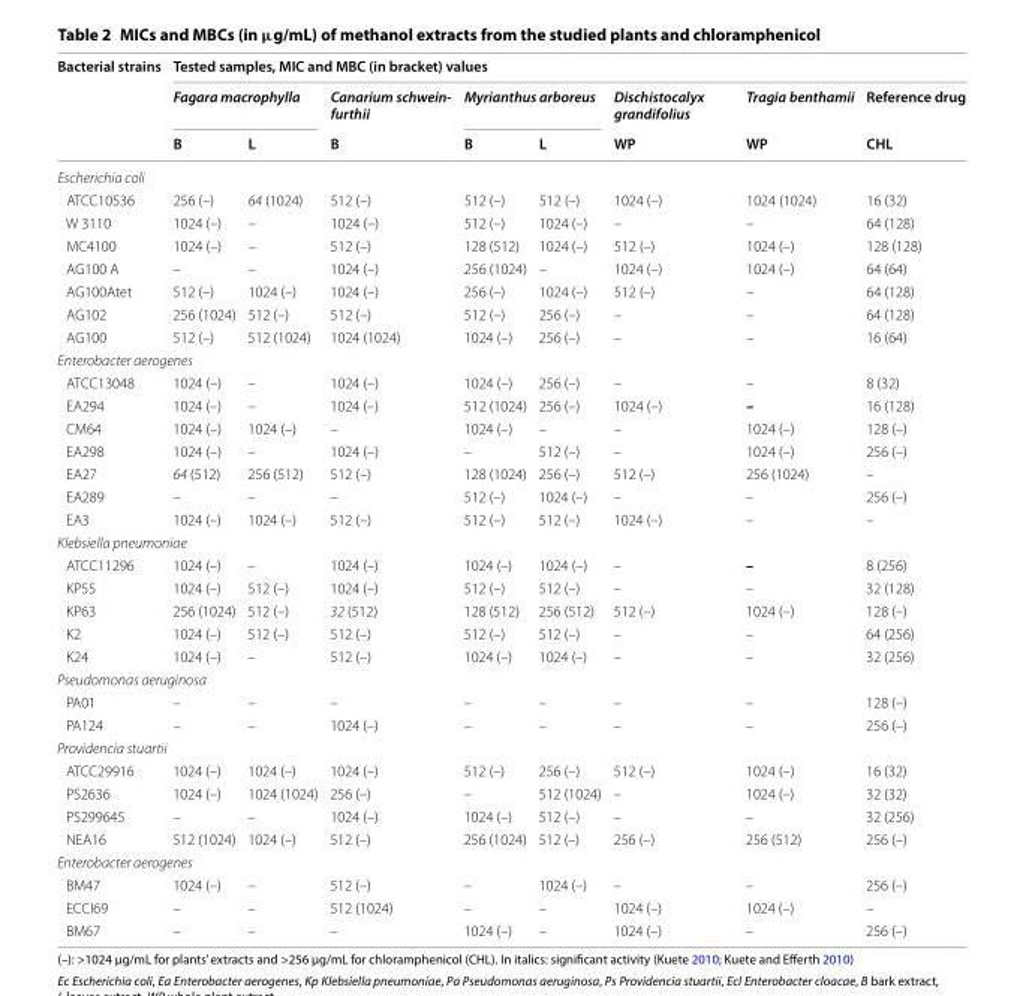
<table><thead><tr><td rowspan="3">Bacterial strains</td><td colspan="8">Tested samples, MIC and MBC (in bracket) values</td></tr><tr><td colspan="2">Fagara macrophylla</td><td rowspan="2">Canarium schwein- furthii B</td><td colspan="2">Myrianthus arboreus</td><td rowspan="2">Dischistocalyx grandifolius WP</td><td rowspan="2">Tragia benthamii WP</td><td rowspan="2">Reference drug CHL</td></tr><tr><td>B</td><td>L</td><td>B</td><td>L</td></tr></thead><tbody><tr><td colspan="9">Escherichia coli</td></tr><tr><td>ATCC10536</td><td>256 (–)</td><td>64 (1024)</td><td>512 (–)</td><td>512 (–)</td><td>512 (–)</td><td>1024 (–)</td><td>1024 (1024)</td><td>16 (32)</td></tr><tr><td>W 3110</td><td>1024 (–)</td><td>–</td><td>1024 (–)</td><td>512 (–)</td><td>1024 (–)</td><td>–</td><td>–</td><td>64 (128)</td></tr><tr><td>MC4100</td><td>1024 (–)</td><td>–</td><td>512 (–)</td><td>128 (512)</td><td>1024 (–)</td><td>512 (–)</td><td>1024 (–)</td><td>128 (128)</td></tr><tr><td>AG100 A</td><td>–</td><td>–</td><td>1024 (–)</td><td>256 (1024)</td><td>–</td><td>1024 (–)</td><td>1024 (–)</td><td>64 (64)</td></tr><tr><td>AG100Atet</td><td>512 (–)</td><td>1024 (–)</td><td>1024 (–)</td><td>256 (–)</td><td>1024 (–)</td><td>512 (–)</td><td>–</td><td>64 (128)</td></tr><tr><td>AG102</td><td>256 (1024)</td><td>512 (–)</td><td>512 (–)</td><td>512 (–)</td><td>256 (–)</td><td>–</td><td>–</td><td>64 (128)</td></tr><tr><td>AG100</td><td>512 (–)</td><td>512 (1024)</td><td>1024 (1024)</td><td>1024 (–)</td><td>256 (–)</td><td>–</td><td>–</td><td>16 (64)</td></tr><tr><td colspan="9">Enterobacter aerogenes</td></tr><tr><td>ATCC13048</td><td>1024 (–)</td><td>–</td><td>1024 (–)</td><td>1024 (–)</td><td>256 (–)</td><td>–</td><td>–</td><td>8 (32)</td></tr><tr><td>EA294</td><td>1024 (–)</td><td>–</td><td>1024 (–)</td><td>512 (1024)</td><td>256 (–)</td><td>1024 (–)</td><td>–</td><td>16 (128)</td></tr><tr><td>CM64</td><td>1024 (–)</td><td>1024 (–)</td><td>–</td><td>1024 (–)</td><td>–</td><td>–</td><td>1024 (–)</td><td>128 (–)</td></tr><tr><td>EA298</td><td>1024 (–)</td><td>–</td><td>1024 (–)</td><td>–</td><td>512 (–)</td><td>–</td><td>1024 (–)</td><td>256 (–)</td></tr><tr><td>EA27</td><td>64 (512)</td><td>256 (512)</td><td>512 (–)</td><td>128 (1024)</td><td>256 (–)</td><td>512 (–)</td><td>256 (1024)</td><td>–</td></tr><tr><td>EA289</td><td>–</td><td>–</td><td>–</td><td>512 (–)</td><td>1024 (–)</td><td>–</td><td>–</td><td>256 (–)</td></tr><tr><td>EA3</td><td>1024 (–)</td><td>1024 (–)</td><td>512 (–)</td><td>512 (–)</td><td>512 (–)</td><td>1024 (–)</td><td>–</td><td>–</td></tr><tr><td colspan="9">Klebsiella pneumoniae</td></tr><tr><td>ATCC11296</td><td>1024 (–)</td><td>–</td><td>1024 (–)</td><td>1024 (–)</td><td>1024 (–)</td><td>–</td><td>–</td><td>8 (256)</td></tr><tr><td>KP55</td><td>1024 (–)</td><td>512 (–)</td><td>1024 (–)</td><td>512 (–)</td><td>512 (–)</td><td>–</td><td>–</td><td>32 (128)</td></tr><tr><td>KP63</td><td>256 (1024)</td><td>512 (–)</td><td>32 (512)</td><td>128 (512)</td><td>256 (512)</td><td>512 (–)</td><td>1024 (–)</td><td>128 (–)</td></tr><tr><td>K2</td><td>1024 (–)</td><td>512 (–)</td><td>512 (–)</td><td>512 (–)</td><td>512 (–)</td><td>–</td><td>–</td><td>64 (256)</td></tr><tr><td>K24</td><td>1024 (–)</td><td>–</td><td>512 (–)</td><td>1024 (–)</td><td>1024 (–)</td><td>–</td><td>–</td><td>32 (256)</td></tr><tr><td colspan="9">Pseudomonas aeruginosa</td></tr><tr><td>PA01</td><td>–</td><td>–</td><td>–</td><td>–</td><td>–</td><td>–</td><td>–</td><td>128 (–)</td></tr><tr><td>PA124</td><td>–</td><td>–</td><td>1024 (–)</td><td>–</td><td>–</td><td>–</td><td>–</td><td>256 (–)</td></tr><tr><td colspan="9">Providencia stuartii</td></tr><tr><td>ATCC29916</td><td>1024 (–)</td><td>1024 (–)</td><td>1024 (–)</td><td>512 (–)</td><td>256 (–)</td><td>512 (–)</td><td>1024 (–)</td><td>16 (32)</td></tr><tr><td>PS2636</td><td>1024 (–)</td><td>1024 (1024)</td><td>256 (–)</td><td>–</td><td>512 (1024)</td><td>–</td><td>1024 (–)</td><td>32 (32)</td></tr><tr><td>PS299645</td><td>–</td><td>–</td><td>1024 (–)</td><td>1024 (–)</td><td>512 (–)</td><td>–</td><td>–</td><td>32 (256)</td></tr><tr><td>NEA16</td><td>512 (1024)</td><td>1024 (–)</td><td>512 (–)</td><td>256 (1024)</td><td>512 (–)</td><td>256 (–)</td><td>256 (512)</td><td>256 (–)</td></tr><tr><td colspan="9">Enterobacter aerogenes</td></tr><tr><td>BM47</td><td>1024 (–)</td><td>–</td><td>512 (–)</td><td>–</td><td>1024 (–)</td><td>–</td><td>–</td><td>256 (–)</td></tr><tr><td>ECCI69</td><td>–</td><td>–</td><td>512 (1024)</td><td>–</td><td>–</td><td>1024 (–)</td><td>1024 (–)</td><td>–</td></tr><tr><td>BM67</td><td>–</td><td>–</td><td>–</td><td>1024 (–)</td><td>–</td><td>1024 (–)</td><td>–</td><td>256 (–)</td></tr></tbody></table>